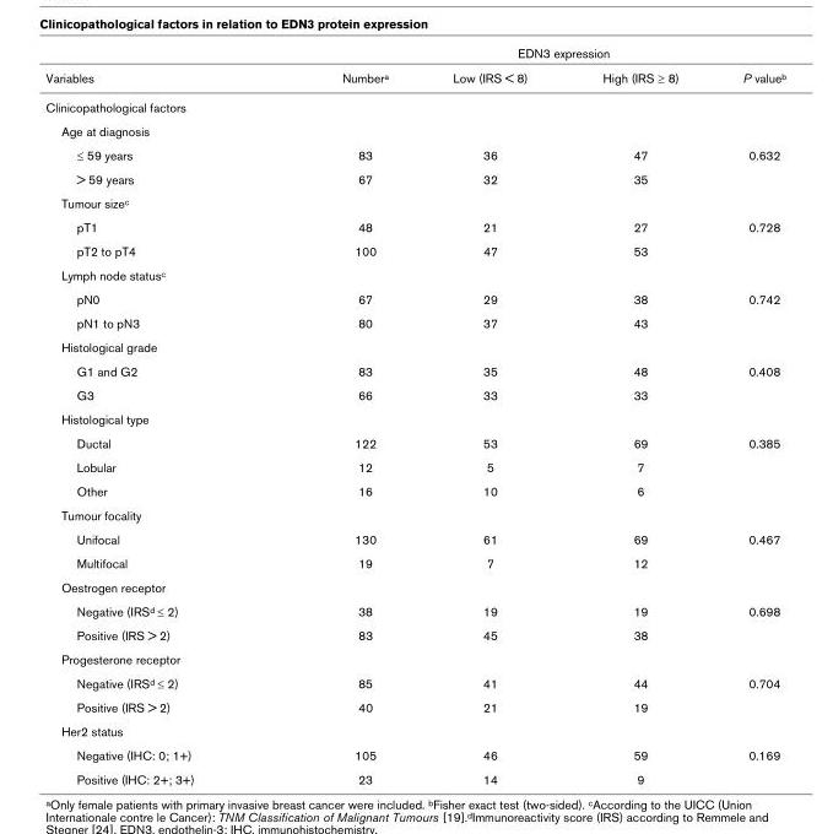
<table><thead><tr><td rowspan="2">Variables</td><td colspan="4">EDN3 expression</td></tr><tr><td>Number<sup>a</sup></td><td>Low (IRS &lt; 8)</td><td>High (IRS ≥ 8)</td><td>P value<sup>b</sup></td></tr></thead><tbody><tr><td colspan="5">Clinicopathological factors</td></tr><tr><td colspan="5">Age at diagnosis</td></tr><tr><td>≤ 59 years</td><td>83</td><td>36</td><td>47</td><td>0.632</td></tr><tr><td>&gt; 59 years</td><td>67</td><td>32</td><td>35</td><td></td></tr><tr><td colspan="5">Tumour size<sup>c</sup></td></tr><tr><td>pT1</td><td>48</td><td>21</td><td>27</td><td>0.728</td></tr><tr><td>pT2 to pT4</td><td>100</td><td>47</td><td>53</td><td></td></tr><tr><td colspan="5">Lymph node status<sup>c</sup></td></tr><tr><td>pN0</td><td>67</td><td>29</td><td>38</td><td>0.742</td></tr><tr><td>pN1 to pN3</td><td>80</td><td>37</td><td>43</td><td></td></tr><tr><td colspan="5">Histological grade</td></tr><tr><td>G1 and G2</td><td>83</td><td>35</td><td>48</td><td>0.408</td></tr><tr><td>G3</td><td>66</td><td>33</td><td>33</td><td></td></tr><tr><td colspan="5">Histological type</td></tr><tr><td>Ductal</td><td>122</td><td>53</td><td>69</td><td>0.385</td></tr><tr><td>Lobular</td><td>12</td><td>5</td><td>7</td><td></td></tr><tr><td>Other</td><td>16</td><td>10</td><td>6</td><td></td></tr><tr><td colspan="5">Tumour focality</td></tr><tr><td>Unifocal</td><td>130</td><td>61</td><td>69</td><td>0.467</td></tr><tr><td>Multifocal</td><td>19</td><td>7</td><td>12</td><td></td></tr><tr><td colspan="5">Oestrogen receptor</td></tr><tr><td>Negative (IRS<sup>d</sup> ≤ 2)</td><td>38</td><td>19</td><td>19</td><td>0.698</td></tr><tr><td>Positive (IRS &gt; 2)</td><td>83</td><td>45</td><td>38</td><td></td></tr><tr><td colspan="5">Progesterone receptor</td></tr><tr><td>Negative (IRS<sup>d</sup> ≤ 2)</td><td>85</td><td>41</td><td>44</td><td>0.704</td></tr><tr><td>Positive (IRS &gt; 2)</td><td>40</td><td>21</td><td>19</td><td></td></tr><tr><td colspan="5">Her2 status</td></tr><tr><td>Negative (IHC: 0; 1+)</td><td>105</td><td>46</td><td>59</td><td>0.169</td></tr><tr><td>Positive (IHC: 2+; 3+)</td><td>23</td><td>14</td><td>9</td><td></td></tr></tbody></table>